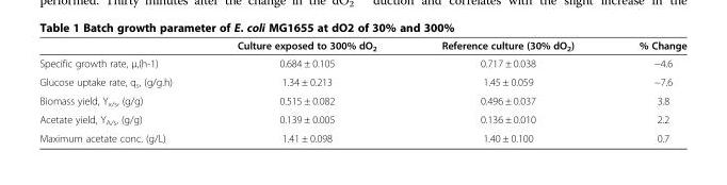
<table><thead><tr><td></td><td>Culture exposed to 300% dO<sub>2</sub></td><td>Reference culture (30% dO<sub>2</sub>)</td><td>% Change</td></tr></thead><tbody><tr><td>Specific growth rate, μ,(h-1)</td><td>0.684 ± 0.105</td><td>0.717 ± 0.038</td><td>−4.6</td></tr><tr><td>Glucose uptake rate, q<sub>s</sub>, (g/g.h)</td><td>1.34 ± 0.213</td><td>1.45 ± 0.059</td><td>−7.6</td></tr><tr><td>Biomass yield, Y<sub>x/s</sub>, (g/g)</td><td>0.515 ± 0.082</td><td>0.496 ± 0.037</td><td>3.8</td></tr><tr><td>Acetate yield, Y<sub>A/s</sub>, (g/g)</td><td>0.139 ± 0.005</td><td>0.136 ± 0.010</td><td>2.2</td></tr><tr><td>Maximum acetate conc. (g/L)</td><td>1.41 ± 0.098</td><td>1.40 ± 0.100</td><td>0.7</td></tr></tbody></table>